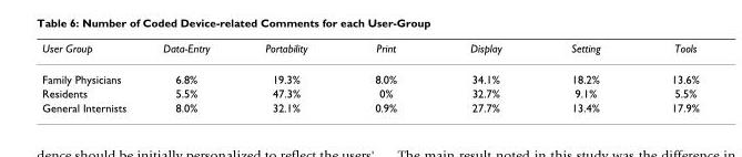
<table><thead><tr><td>User Group</td><td>Data-Entry</td><td>Portability</td><td>Print</td><td>Display</td><td>Setting</td><td>Tools</td></tr></thead><tbody><tr><td>Family Physicians</td><td>6.8%</td><td>19.3%</td><td>8.0%</td><td>34.1%</td><td>18.2%</td><td>13.6%</td></tr><tr><td>Residents</td><td>5.5%</td><td>47.3%</td><td>0%</td><td>32.7%</td><td>9.1%</td><td>5.5%</td></tr><tr><td>General Internists</td><td>8.0%</td><td>32.1%</td><td>0.9%</td><td>27.7%</td><td>13.4%</td><td>17.9%</td></tr></tbody></table>